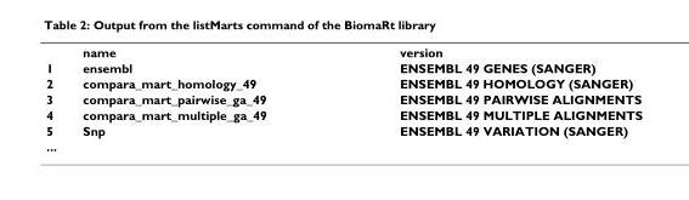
<table><thead><tr><td></td><td>name</td><td>version</td></tr></thead><tbody><tr><td>1</td><td>ensembl</td><td>ENSEMBL 49 GENES (SANGER)</td></tr><tr><td>2</td><td>compara_mart_homology_49</td><td>ENSEMBL 49 HOMOLOGY (SANGER)</td></tr><tr><td>3</td><td>compara_mart_pairwise_ga_49</td><td>ENSEMBL 49 PAIRWISE ALIGNMENTS</td></tr><tr><td>4</td><td>compara_mart_multiple_ga_49</td><td>ENSEMBL 49 MULTIPLE ALIGNMENTS</td></tr><tr><td>5</td><td>Snp</td><td>ENSEMBL 49 VARIATION (SANGER)</td></tr><tr><td>...</td><td></td><td></td></tr></tbody></table>